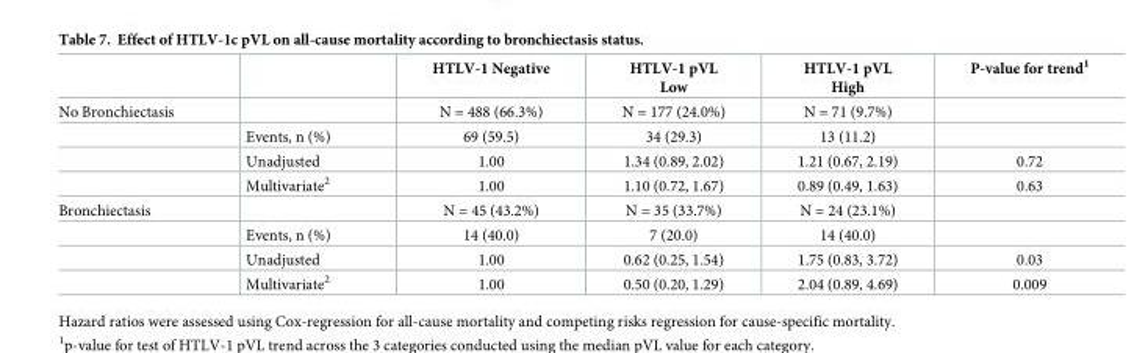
<table><thead><tr><td></td><td></td><td>HTLV-1 Negative</td><td>HTLV-1 pVL Low</td><td>HTLV-1 pVL High</td><td>P-value for trend<sup>1</sup></td></tr></thead><tbody><tr><td rowspan="4">No Bronchiectasis</td><td></td><td>N = 488 (66.3%)</td><td>N = 177 (24.0%)</td><td>N = 71 (9.7%)</td><td></td></tr><tr><td>Events, n (%)</td><td>69 (59.5)</td><td>34 (29.3)</td><td>13 (11.2)</td><td></td></tr><tr><td>Unadjusted</td><td>1.00</td><td>1.34 (0.89, 2.02)</td><td>1.21 (0.67, 2.19)</td><td>0.72</td></tr><tr><td>Multivariate<sup>2</sup></td><td>1.00</td><td>1.10 (0.72, 1.67)</td><td>0.89 (0.49, 1.63)</td><td>0.63</td></tr><tr><td rowspan="4">Bronchiectasis</td><td></td><td>N = 45 (43.2%)</td><td>N = 35 (33.7%)</td><td>N = 24 (23.1%)</td><td></td></tr><tr><td>Events, n (%)</td><td>14 (40.0)</td><td>7 (20.0)</td><td>14 (40.0)</td><td></td></tr><tr><td>Unadjusted</td><td>1.00</td><td>0.62 (0.25, 1.54)</td><td>1.75 (0.83, 3.72)</td><td>0.03</td></tr><tr><td>Multivariate<sup>2</sup></td><td>1.00</td><td>0.50 (0.20, 1.29)</td><td>2.04 (0.89, 4.69)</td><td>0.009</td></tr></tbody></table>